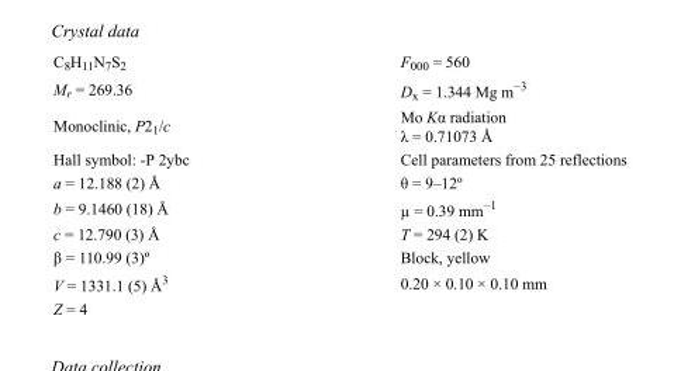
<table><tbody><tr><td>C<sub>8</sub>H<sub>11</sub>N<sub>7</sub>S<sub>2</sub></td><td>F000 = 560</td></tr><tr><td>M<sub>r</sub> = 269.36</td><td>D<sub>x</sub> = 1.344 Mg m<sup>−3</sup></td></tr><tr><td>Monoclinic, P2<sub>1</sub>/c</td><td>Mo Kα radiation λ = 0.71073 Å</td></tr><tr><td>Hall symbol: -P 2ybc</td><td>Cell parameters from 25 reflections</td></tr><tr><td>a = 12.188 (2) Å</td><td>θ = 9–12º</td></tr><tr><td>b = 9.1460 (18) Å</td><td>µ = 0.39 mm<sup>−1</sup></td></tr><tr><td>c = 12.790 (3) Å</td><td>T = 294 (2) K</td></tr><tr><td>β = 110.99 (3)º</td><td>Block, yellow</td></tr><tr><td>V = 1331.1 (5) Å<sup>3</sup></td><td>0.20 × 0.10 × 0.10 mm</td></tr><tr><td>Z = 4</td><td></td></tr></tbody></table>